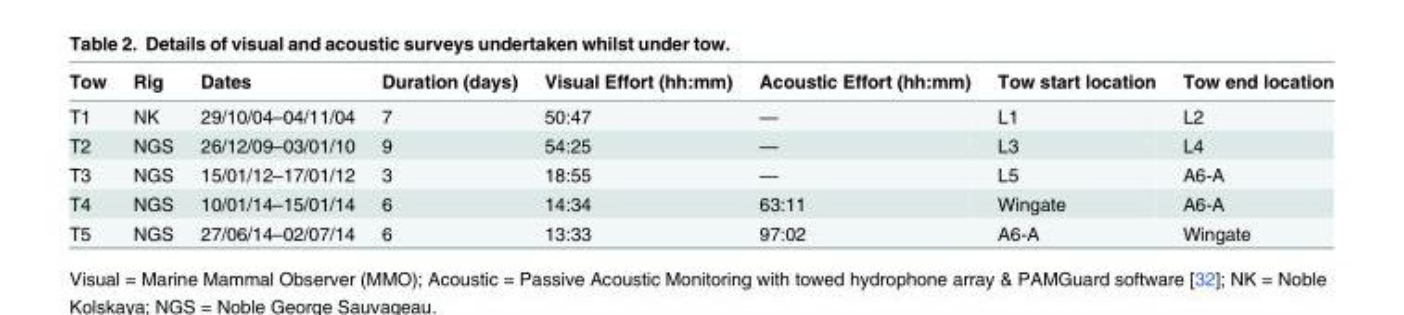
<table><thead><tr><td>Tow</td><td>Rig</td><td>Dates</td><td>Duration (days)</td><td>Visual Effort (hh:mm)</td><td>Acoustic Effort (hh:mm)</td><td>Tow start location</td><td>Tow end location</td></tr></thead><tbody><tr><td>T1</td><td>NK</td><td>29/10/04–04/11/04</td><td>7</td><td>50:47</td><td>—</td><td>L1</td><td>L2</td></tr><tr><td>T2</td><td>NGS</td><td>26/12/09–03/01/10</td><td>9</td><td>54:25</td><td>—</td><td>L3</td><td>L4</td></tr><tr><td>T3</td><td>NGS</td><td>15/01/12–17/01/12</td><td>3</td><td>18:55</td><td>—</td><td>L5</td><td>A6-A</td></tr><tr><td>T4</td><td>NGS</td><td>10/01/14–15/01/14</td><td>6</td><td>14:34</td><td>63:11</td><td>Wingate</td><td>A6-A</td></tr><tr><td>T5</td><td>NGS</td><td>27/06/14–02/07/14</td><td>6</td><td>13:33</td><td>97:02</td><td>A6-A</td><td>Wingate</td></tr></tbody></table>